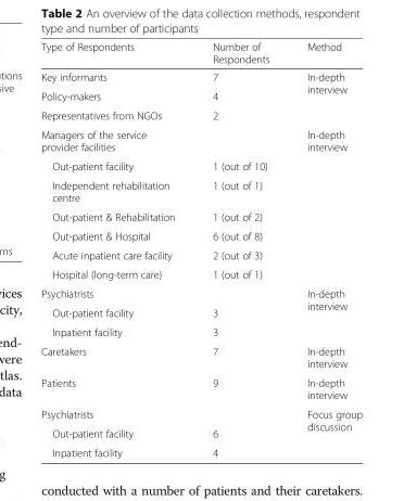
<table><thead><tr><td>Type of Respondents</td><td>Number of Respondents</td><td>Method</td></tr></thead><tbody><tr><td>Key informants</td><td>7</td><td rowspan="3">In-depth interview</td></tr><tr><td>Policy-makers</td><td>4</td></tr><tr><td>Representatives from NGOs</td><td>2</td></tr><tr><td colspan="2">Managers of the service provider facilities</td><td rowspan="7">In-depth interview</td></tr><tr><td>Out-patient facility</td><td>1 (out of 10)</td></tr><tr><td>Independent rehabilitation centre</td><td>1 (out of 1)</td></tr><tr><td>Out-patient &amp; Rehabilitation</td><td>1 (out of 2)</td></tr><tr><td>Out-patient &amp; Hospital</td><td>6 (out of 8)</td></tr><tr><td>Acute inpatient care facility</td><td>2 (out of 3)</td></tr><tr><td>Hospital (long-term care)</td><td>1 (out of 1)</td></tr><tr><td colspan="2">Psychiatrists</td><td rowspan="3">In-depth interview</td></tr><tr><td>Out-patient facility</td><td>3</td></tr><tr><td>Inpatient facility</td><td>3</td></tr><tr><td>Caretakers</td><td>7</td><td>In-depth interview</td></tr><tr><td>Patients</td><td>9</td><td>In-depth interview</td></tr><tr><td colspan="2">Psychiatrists</td><td rowspan="3">Focus group discussion</td></tr><tr><td>Out-patient facility</td><td>6</td></tr><tr><td>Inpatient facility</td><td>4</td></tr></tbody></table>